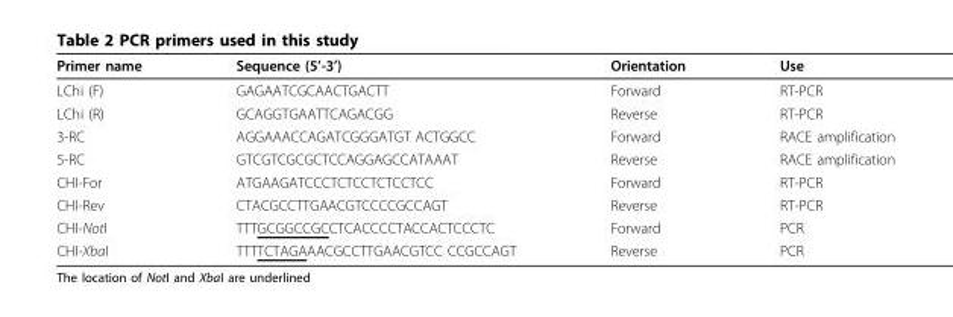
<table><thead><tr><td>Primer name</td><td>Sequence (5’-3’)</td><td>Orientation</td><td>Use</td></tr></thead><tbody><tr><td>LChi (F)</td><td>GAGAATCGCAACTGACTT</td><td>Forward</td><td>RT-PCR</td></tr><tr><td>LChi (R)</td><td>GCAGGTGAATTCAGACGG</td><td>Reverse</td><td>RT-PCR</td></tr><tr><td>3-RC</td><td>AGGAAACCAGATCGGGATGT ACTGGCC</td><td>Forward</td><td>RACE amplification</td></tr><tr><td>5-RC</td><td>GTCGTCGCGCTCCAGGAGCCATAAAT</td><td>Reverse</td><td>RACE amplification</td></tr><tr><td>CHI-For</td><td>ATGAAGATCCCTCTCCTCTCCTCC</td><td>Forward</td><td>RT-PCR</td></tr><tr><td>CHI-Rev</td><td>CTACGCCTTGAACGTCCCCGCCAGT</td><td>Reverse</td><td>RT-PCR</td></tr><tr><td>CHI-NotI</td><td>TTTGCGGCCGCCTCACCCCTACCACTCCCTC</td><td>Forward</td><td>PCR</td></tr><tr><td>CHI-XbaI</td><td>TTTTCTAGAAACGCCTTGAACGTCC CCGCCAGT</td><td>Reverse</td><td>PCR</td></tr></tbody></table>